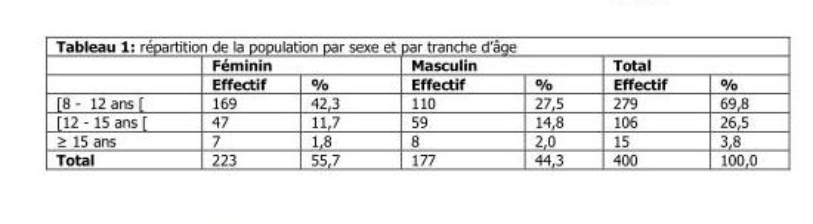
<table><thead><tr><td rowspan="2"></td><td colspan="2">Féminin</td><td colspan="2">Masculin</td><td colspan="2">Total</td></tr><tr><td>Effectif</td><td>%</td><td>Effectif</td><td>%</td><td>Effectif</td><td>%</td></tr></thead><tbody><tr><td>[8 - 12 ans [</td><td>169</td><td>42,3</td><td>110</td><td>27,5</td><td>279</td><td>69,8</td></tr><tr><td>[12 - 15 ans [</td><td>47</td><td>11,7</td><td>59</td><td>14,8</td><td>106</td><td>26,5</td></tr><tr><td>≥ 15 ans</td><td>7</td><td>1,8</td><td>8</td><td>2,0</td><td>15</td><td>3,8</td></tr><tr><td>Total</td><td>223</td><td>55,7</td><td>177</td><td>44,3</td><td>400</td><td>100,0</td></tr></tbody></table>